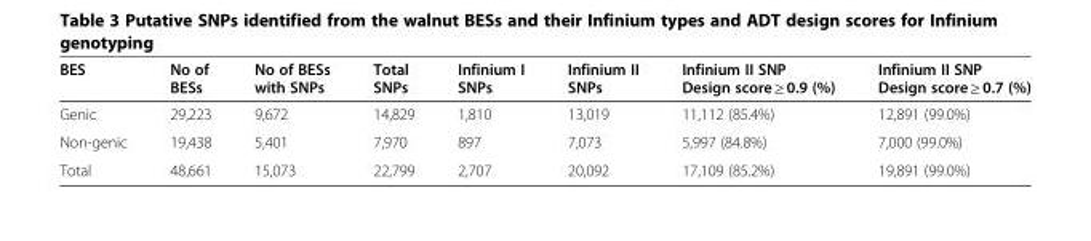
<table><thead><tr><td>BES</td><td>No of BESs</td><td>No of BESs with SNPs</td><td>Total SNPs</td><td>Infinium I SNPs</td><td>Infinium II SNPs</td><td>Infinium II SNP Design score ≥ 0.9 (%)</td><td>Infinium II SNP Design score ≥ 0.7 (%)</td></tr></thead><tbody><tr><td>Genic</td><td>29,223</td><td>9,672</td><td>14,829</td><td>1,810</td><td>13,019</td><td>11,112 (85.4%)</td><td>12,891 (99.0%)</td></tr><tr><td>Non-genic</td><td>19,438</td><td>5,401</td><td>7,970</td><td>897</td><td>7,073</td><td>5,997 (84.8%)</td><td>7,000 (99.0%)</td></tr><tr><td>Total</td><td>48,661</td><td>15,073</td><td>22,799</td><td>2,707</td><td>20,092</td><td>17,109 (85.2%)</td><td>19,891 (99.0%)</td></tr></tbody></table>